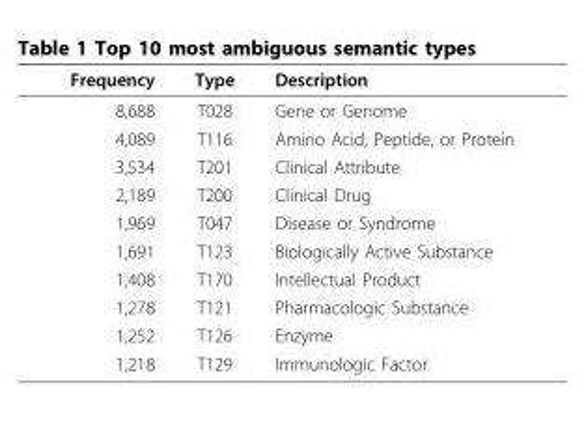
<table><thead><tr><td>Frequency</td><td>Type</td><td>Description</td></tr></thead><tbody><tr><td>8,688</td><td>T028</td><td>Gene or Genome</td></tr><tr><td>4,089</td><td>T116</td><td>Amino Acid, Peptide, or Protein</td></tr><tr><td>3,534</td><td>T201</td><td>Clinical Attribute</td></tr><tr><td>2,189</td><td>T200</td><td>Clinical Drug</td></tr><tr><td>1,969</td><td>T047</td><td>Disease or Syndrome</td></tr><tr><td>1,691</td><td>T123</td><td>Biologically Active Substance</td></tr><tr><td>1,408</td><td>T170</td><td>Intellectual Product</td></tr><tr><td>1,278</td><td>T121</td><td>Pharmacologic Substance</td></tr><tr><td>1,252</td><td>T126</td><td>Enzyme</td></tr><tr><td>1,218</td><td>T129</td><td>Immunologic Factor</td></tr></tbody></table>